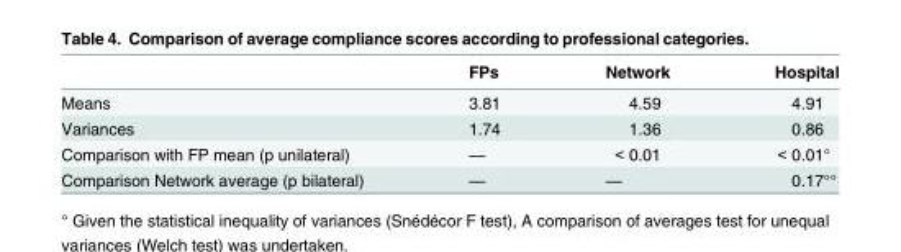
<table><thead><tr><td></td><td>FPs</td><td>Network</td><td>Hospital</td></tr></thead><tbody><tr><td>Means</td><td>3.81</td><td>4.59</td><td>4.91</td></tr><tr><td>Variances</td><td>1.74</td><td>1.36</td><td>0.86</td></tr><tr><td>Comparison with FP mean (p unilateral)</td><td>—</td><td>&lt; 0.01</td><td>&lt; 0.01°</td></tr><tr><td>Comparison Network average (p bilateral)</td><td>—</td><td>—</td><td>0.17°°</td></tr></tbody></table>